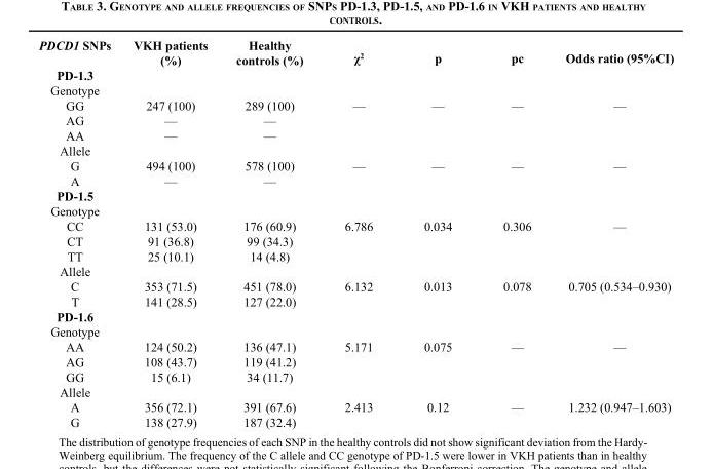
<table><thead><tr><td>PDCD1 SNPs</td><td>VKH patients (%)</td><td>Healthy controls (%)</td><td>χ<sup>2</sup></td><td>p</td><td>pc</td><td>Odds ratio (95%CI)</td></tr></thead><tbody><tr><td colspan="7">PD-1.3</td></tr><tr><td colspan="7">Genotype</td></tr><tr><td>GG</td><td>247 (100)</td><td>289 (100)</td><td>—</td><td>—</td><td>—</td><td>—</td></tr><tr><td>AG</td><td>—</td><td>—</td><td></td><td></td><td></td><td></td></tr><tr><td>AA</td><td>—</td><td>—</td><td></td><td></td><td></td><td></td></tr><tr><td colspan="7">Allele</td></tr><tr><td>G</td><td>494 (100)</td><td>578 (100)</td><td>—</td><td>—</td><td>—</td><td>—</td></tr><tr><td>A</td><td>—</td><td>—</td><td></td><td></td><td></td><td></td></tr><tr><td colspan="7">PD-1.5</td></tr><tr><td colspan="7">Genotype</td></tr><tr><td>CC</td><td>131 (53.0)</td><td>176 (60.9)</td><td>6.786</td><td>0.034</td><td>0.306</td><td>—</td></tr><tr><td>CT</td><td>91 (36.8)</td><td>99 (34.3)</td><td></td><td></td><td></td><td></td></tr><tr><td>TT</td><td>25 (10.1)</td><td>14 (4.8)</td><td></td><td></td><td></td><td></td></tr><tr><td colspan="7">Allele</td></tr><tr><td>C</td><td>353 (71.5)</td><td>451 (78.0)</td><td>6.132</td><td>0.013</td><td>0.078</td><td>0.705 (0.534–0.930)</td></tr><tr><td>T</td><td>141 (28.5)</td><td>127 (22.0)</td><td></td><td></td><td></td><td></td></tr><tr><td colspan="7">PD-1.6</td></tr><tr><td colspan="7">Genotype</td></tr><tr><td>AA</td><td>124 (50.2)</td><td>136 (47.1)</td><td>5.171</td><td>0.075</td><td>—</td><td>—</td></tr><tr><td>AG</td><td>108 (43.7)</td><td>119 (41.2)</td><td></td><td></td><td></td><td></td></tr><tr><td>GG</td><td>15 (6.1)</td><td>34 (11.7)</td><td></td><td></td><td></td><td></td></tr><tr><td colspan="7">Allele</td></tr><tr><td>A</td><td>356 (72.1)</td><td>391 (67.6)</td><td>2.413</td><td>0.12</td><td>—</td><td>1.232 (0.947–1.603)</td></tr><tr><td>G</td><td>138 (27.9)</td><td>187 (32.4)</td><td></td><td></td><td></td><td></td></tr></tbody></table>